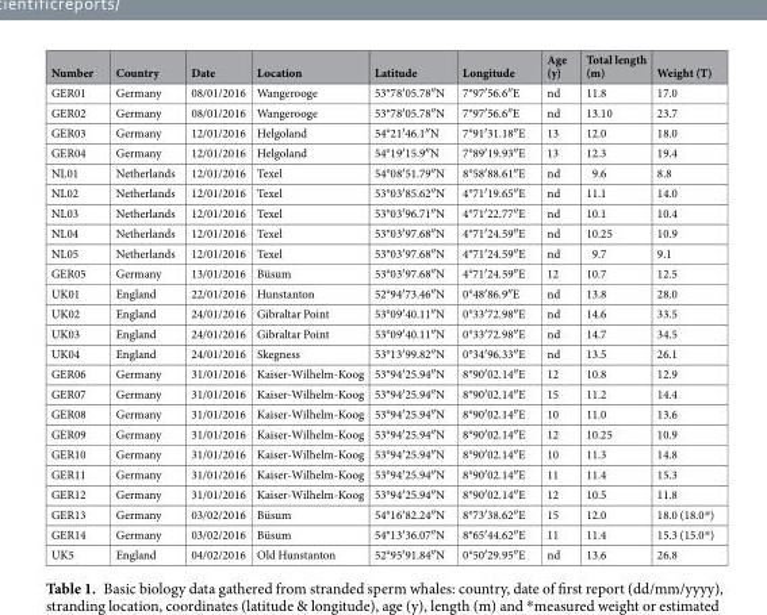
<table><thead><tr><td>Number</td><td>Country</td><td>Date</td><td>Location</td><td>Latitude</td><td>Longitude</td><td>Age (y)</td><td>Total length (m)</td><td>Weight (T)</td></tr></thead><tbody><tr><td>GER01</td><td>Germany</td><td>08/01/2016</td><td>Wangerooge</td><td>53°78′05.78″N</td><td>7°97′56.6″E</td><td>nd</td><td>11.8</td><td>17.0</td></tr><tr><td>GER02</td><td>Germany</td><td>08/01/2016</td><td>Wangerooge</td><td>53°78′05.78″N</td><td>7°97′56.6″E</td><td>nd</td><td>13.10</td><td>23.7</td></tr><tr><td>GER03</td><td>Germany</td><td>12/01/2016</td><td>Helgoland</td><td>54°21′46.1″N</td><td>7°91′31.18″E</td><td>13</td><td>12.0</td><td>18.0</td></tr><tr><td>GER04</td><td>Germany</td><td>12/01/2016</td><td>Helgoland</td><td>54°19′15.9″N</td><td>7°89′19.93″E</td><td>13</td><td>12.3</td><td>19.4</td></tr><tr><td>NL01</td><td>Netherlands</td><td>12/01/2016</td><td>Texel</td><td>54°08′51.79″N</td><td>8°58′88.61″E</td><td>nd</td><td>9.6</td><td>8.8</td></tr><tr><td>NL02</td><td>Netherlands</td><td>12/01/2016</td><td>Texel</td><td>53°03′85.62″N</td><td>4°71′19.65″E</td><td>nd</td><td>11.1</td><td>14.0</td></tr><tr><td>NL03</td><td>Netherlands</td><td>12/01/2016</td><td>Texel</td><td>53°03′96.71″N</td><td>4°71′22.77″E</td><td>nd</td><td>10.1</td><td>10.4</td></tr><tr><td>NL04</td><td>Netherlands</td><td>12/01/2016</td><td>Texel</td><td>53°03′97.68″N</td><td>4°71′24.59″E</td><td>nd</td><td>10.25</td><td>10.9</td></tr><tr><td>NL05</td><td>Netherlands</td><td>12/01/2016</td><td>Texel</td><td>53°03′97.68″N</td><td>4°71′24.59″E</td><td>nd</td><td>9.7</td><td>9.1</td></tr><tr><td>GER05</td><td>Germany</td><td>13/01/2016</td><td>Büsum</td><td>53°03′97.68″N</td><td>4°71′24.59″E</td><td>12</td><td>10.7</td><td>12.5</td></tr><tr><td>UK01</td><td>England</td><td>22/01/2016</td><td>Hunstanton</td><td>52°94′73.46″N</td><td>0°48′86.9″E</td><td>nd</td><td>13.8</td><td>28.0</td></tr><tr><td>UK02</td><td>England</td><td>24/01/2016</td><td>Gibraltar Point</td><td>53°09′40.11″N</td><td>0°33′72.98″E</td><td>nd</td><td>14.6</td><td>33.5</td></tr><tr><td>UK03</td><td>England</td><td>24/01/2016</td><td>Gibraltar Point</td><td>53°09′40.11″N</td><td>0°33′72.98″E</td><td>nd</td><td>14.7</td><td>34.5</td></tr><tr><td>UK04</td><td>England</td><td>24/01/2016</td><td>Skegness</td><td>53°13′99.82″N</td><td>0°34′96.33″E</td><td>nd</td><td>13.5</td><td>26.1</td></tr><tr><td>GER06</td><td>Germany</td><td>31/01/2016</td><td>Kaiser-Wilhelm-Koog</td><td>53°94′25.94″N</td><td>8°90′02.14″E</td><td>12</td><td>10.8</td><td>12.9</td></tr><tr><td>GER07</td><td>Germany</td><td>31/01/2016</td><td>Kaiser-Wilhelm-Koog</td><td>53°94′25.94″N</td><td>8°90′02.14″E</td><td>15</td><td>11.2</td><td>14.4</td></tr><tr><td>GER08</td><td>Germany</td><td>31/01/2016</td><td>Kaiser-Wilhelm-Koog</td><td>53°94′25.94″N</td><td>8°90′02.14″E</td><td>10</td><td>11.0</td><td>13.6</td></tr><tr><td>GER09</td><td>Germany</td><td>31/01/2016</td><td>Kaiser-Wilhelm-Koog</td><td>53°94′25.94″N</td><td>8°90′02.14″E</td><td>12</td><td>10.25</td><td>10.9</td></tr><tr><td>GER10</td><td>Germany</td><td>31/01/2016</td><td>Kaiser-Wilhelm-Koog</td><td>53°94′25.94″N</td><td>8°90′02.14″E</td><td>10</td><td>11.3</td><td>14.8</td></tr><tr><td>GER11</td><td>Germany</td><td>31/01/2016</td><td>Kaiser-Wilhelm-Koog</td><td>53°94′25.94″N</td><td>8°90′02.14″E</td><td>11</td><td>11.4</td><td>15.3</td></tr><tr><td>GER12</td><td>Germany</td><td>31/01/2016</td><td>Kaiser-Wilhelm-Koog</td><td>53°94′25.94″N</td><td>8°90′02.14″E</td><td>12</td><td>10.5</td><td>11.8</td></tr><tr><td>GER13</td><td>Germany</td><td>03/02/2016</td><td>Büsum</td><td>54°16′82.24″N</td><td>8°73′38.62″E</td><td>15</td><td>12.0</td><td>18.0 (18.0*)</td></tr><tr><td>GER14</td><td>Germany</td><td>03/02/2016</td><td>Büsum</td><td>54°13′36.07″N</td><td>8°65′44.62″E</td><td>11</td><td>11.4</td><td>15.3 (15.0*)</td></tr><tr><td>UK5</td><td>England</td><td>04/02/2016</td><td>Old Hunstanton</td><td>52°95′91.84″N</td><td>0°50′29.95″E</td><td>nd</td><td>13.6</td><td>26.8</td></tr></tbody></table>